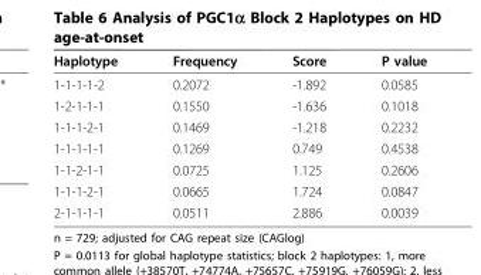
<table><thead><tr><td>Haplotype</td><td>Frequency</td><td>Score</td><td>P value</td></tr></thead><tbody><tr><td>1-1-1-1-2</td><td>0.2072</td><td>-1.892</td><td>0.0585</td></tr><tr><td>1-2-1-1-1</td><td>0.1550</td><td>-1.636</td><td>0.1018</td></tr><tr><td>1-1-1-2-1</td><td>0.1469</td><td>-1.218</td><td>0.2232</td></tr><tr><td>1-1-1-1-1</td><td>0.1269</td><td>0.749</td><td>0.4538</td></tr><tr><td>1-1-2-1-1</td><td>0.0725</td><td>1.125</td><td>0.2606</td></tr><tr><td>1-1-1-2-1</td><td>0.0665</td><td>1.724</td><td>0.0847</td></tr><tr><td>2-1-1-1-1</td><td>0.0511</td><td>2.886</td><td>0.0039</td></tr></tbody></table>